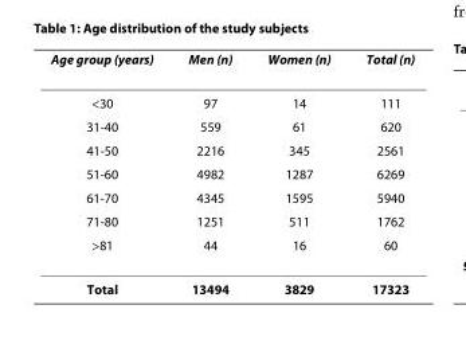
<table><thead><tr><td>Age group (years)</td><td>Men (n)</td><td>Women (n)</td><td>Total (n)</td></tr></thead><tbody><tr><td>&lt;30</td><td>97</td><td>14</td><td>111</td></tr><tr><td>31-40</td><td>559</td><td>61</td><td>620</td></tr><tr><td>41-50</td><td>2216</td><td>345</td><td>2561</td></tr><tr><td>51-60</td><td>4982</td><td>1287</td><td>6269</td></tr><tr><td>61-70</td><td>4345</td><td>1595</td><td>5940</td></tr><tr><td>71-80</td><td>1251</td><td>511</td><td>1762</td></tr><tr><td>&gt;81</td><td>44</td><td>16</td><td>60</td></tr><tr><td>Total</td><td>13494</td><td>3829</td><td>17323</td></tr></tbody></table>